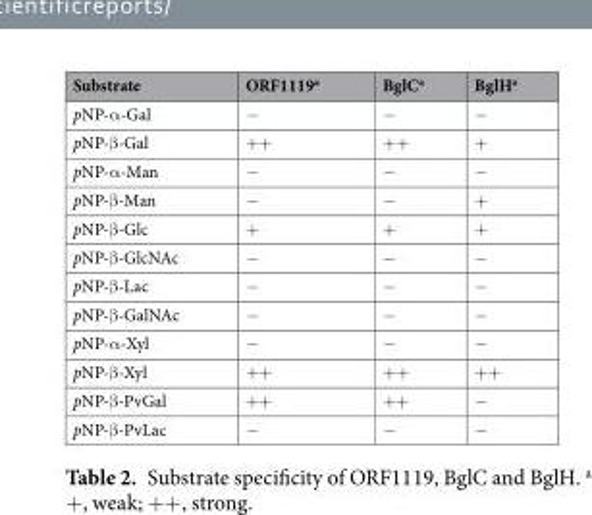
<table><thead><tr><td>Substrate</td><td>ORF1119<sup>a</sup></td><td>BglC<sup>a</sup></td><td>BglH<sup>a</sup></td></tr></thead><tbody><tr><td>pNP-α-Gal</td><td>−</td><td>−</td><td>−</td></tr><tr><td>pNP-β-Gal</td><td>++</td><td>++</td><td>+</td></tr><tr><td>pNP-α-Man</td><td>−</td><td>−</td><td>−</td></tr><tr><td>pNP-β-Man</td><td>−</td><td>−</td><td>+</td></tr><tr><td>pNP-β-Glc</td><td>+</td><td>+</td><td>+</td></tr><tr><td>pNP-β-GlcNAc</td><td>−</td><td>−</td><td>−</td></tr><tr><td>pNP-β-Lac</td><td>−</td><td>−</td><td>−</td></tr><tr><td>pNP-β-GalNAc</td><td>−</td><td>−</td><td>−</td></tr><tr><td>pNP-α-Xyl</td><td>−</td><td>−</td><td>−</td></tr><tr><td>pNP-β-Xyl</td><td>++</td><td>++</td><td>++</td></tr><tr><td>pNP-β-PvGal</td><td>++</td><td>++</td><td>−</td></tr><tr><td>pNP-β-PvLac</td><td>−</td><td>−</td><td>−</td></tr></tbody></table>